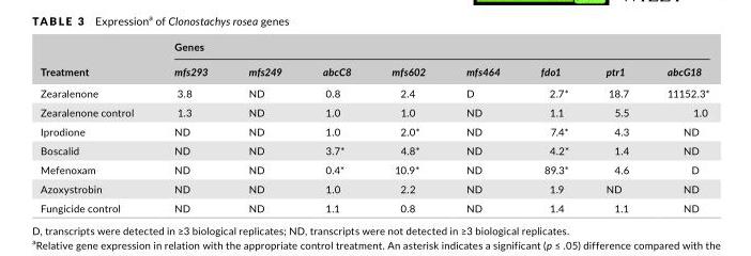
<table><thead><tr><td rowspan="2">Treatment</td><td colspan="8">Genes</td></tr><tr><td>mfs293</td><td>mfs249</td><td>abcC8</td><td>mfs602</td><td>mfs464</td><td>fdo1</td><td>ptr1</td><td>abcG18</td></tr></thead><tbody><tr><td>Zearalenone</td><td>3.8</td><td>ND</td><td>0.8</td><td>2.4</td><td>D</td><td>2.7*</td><td>18.7</td><td>11152.3*</td></tr><tr><td>Zearalenone control</td><td>1.3</td><td>ND</td><td>1.0</td><td>1.0</td><td>ND</td><td>1.1</td><td>5.5</td><td>1.0</td></tr><tr><td>Iprodione</td><td>ND</td><td>ND</td><td>1.0</td><td>2.0*</td><td>ND</td><td>7.4*</td><td>4.3</td><td>ND</td></tr><tr><td>Boscalid</td><td>ND</td><td>ND</td><td>3.7*</td><td>4.8*</td><td>ND</td><td>4.2*</td><td>1.4</td><td>ND</td></tr><tr><td>Mefenoxam</td><td>ND</td><td>ND</td><td>0.4*</td><td>10.9*</td><td>ND</td><td>89.3*</td><td>4.6</td><td>D</td></tr><tr><td>Azoxystrobin</td><td>ND</td><td>ND</td><td>1.0</td><td>2.2</td><td>ND</td><td>1.9</td><td>ND</td><td>ND</td></tr><tr><td>Fungicide control</td><td>ND</td><td>ND</td><td>1.1</td><td>0.8</td><td>ND</td><td>1.4</td><td>1.1</td><td>ND</td></tr></tbody></table>